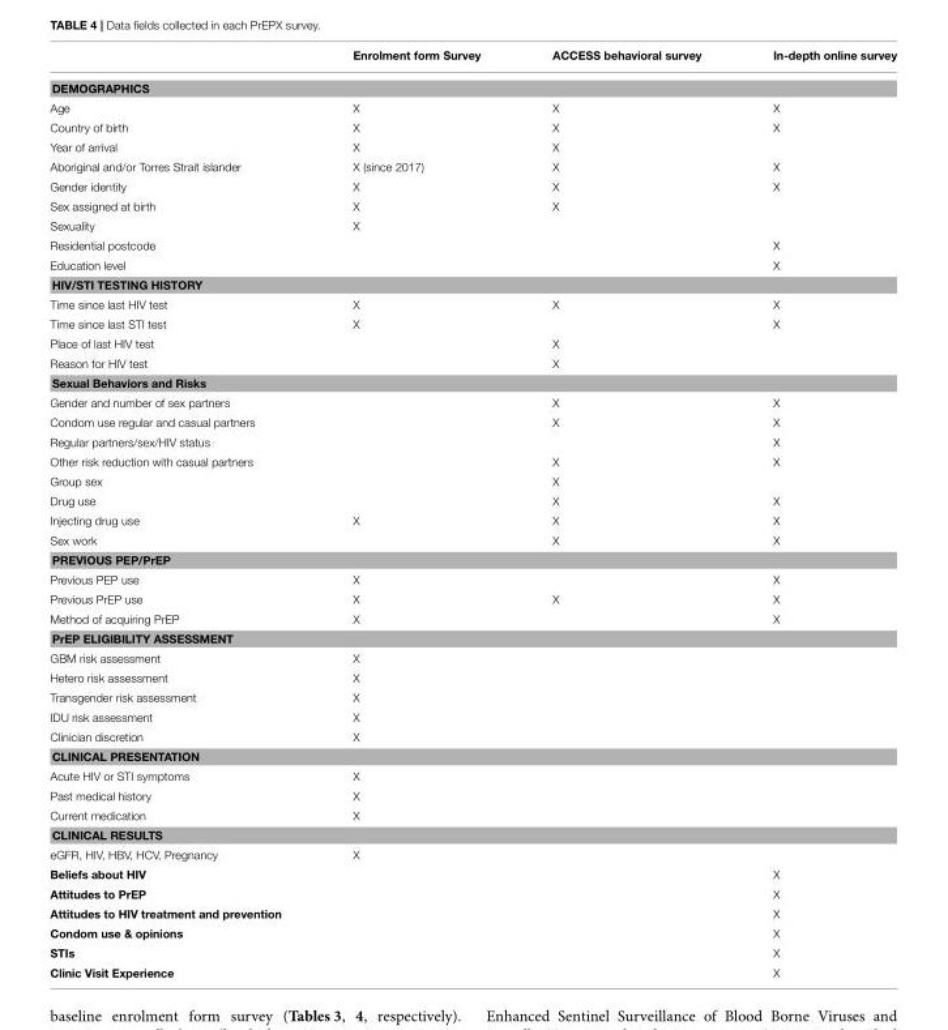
<table><thead><tr><td></td><td>Enrolment form Survey</td><td>ACCESS behavioral survey</td><td>In-depth online survey</td></tr></thead><tbody><tr><td colspan="4">DEMOGRAPHICS</td></tr><tr><td>Age</td><td>X</td><td>X</td><td>X</td></tr><tr><td>Country of birth</td><td>X</td><td>X</td><td>X</td></tr><tr><td>Year of arrival</td><td>X</td><td>X</td><td></td></tr><tr><td>Aboriginal and/or Torres Strait islander</td><td>X (since 2017)</td><td>X</td><td>X</td></tr><tr><td>Gender identity</td><td>X</td><td>X</td><td>X</td></tr><tr><td>Sex assigned at birth</td><td>X</td><td>X</td><td></td></tr><tr><td>Sexuality</td><td>X</td><td></td><td></td></tr><tr><td>Residential postcode</td><td></td><td></td><td>X</td></tr><tr><td>Education level</td><td></td><td></td><td>X</td></tr><tr><td colspan="4">HIV/STI TESTING HISTORY</td></tr><tr><td>Time since last HIV test</td><td>X</td><td>X</td><td>X</td></tr><tr><td>Time since last STI test</td><td>X</td><td></td><td>X</td></tr><tr><td>Place of last HIV test</td><td></td><td>X</td><td></td></tr><tr><td>Reason for HIV test</td><td></td><td>X</td><td></td></tr><tr><td colspan="4">Sexual Behaviors and Risks</td></tr><tr><td>Gender and number of sex partners</td><td></td><td>X</td><td>X</td></tr><tr><td>Condom use regular and casual partners</td><td></td><td>X</td><td>X</td></tr><tr><td>Regular partners/sex/HIV status</td><td></td><td></td><td>X</td></tr><tr><td>Other risk reduction with casual partners</td><td></td><td>X</td><td>X</td></tr><tr><td>Group sex</td><td></td><td>X</td><td></td></tr><tr><td>Drug use</td><td></td><td>X</td><td>X</td></tr><tr><td>Injecting drug use</td><td>X</td><td>X</td><td>X</td></tr><tr><td>Sex work</td><td></td><td>X</td><td>X</td></tr><tr><td colspan="4">PREVIOUS PEP/PrEP</td></tr><tr><td>Previous PEP use</td><td>X</td><td></td><td>X</td></tr><tr><td>Previous PrEP use</td><td>X</td><td>X</td><td>X</td></tr><tr><td>Method of acquiring PrEP</td><td>X</td><td></td><td>X</td></tr><tr><td colspan="4">PrEP ELIGIBILITY ASSESSMENT</td></tr><tr><td>GBM risk assessment</td><td>X</td><td></td><td></td></tr><tr><td>Hetero risk assessment</td><td>X</td><td></td><td></td></tr><tr><td>Transgender risk assessment</td><td>X</td><td></td><td></td></tr><tr><td>IDU risk assessment</td><td>X</td><td></td><td></td></tr><tr><td>Clinician discretion</td><td>X</td><td></td><td></td></tr><tr><td colspan="4">CLINICAL PRESENTATION</td></tr><tr><td>Acute HIV or STI symptoms</td><td>X</td><td></td><td></td></tr><tr><td>Past medical history</td><td>X</td><td></td><td></td></tr><tr><td>Current medication</td><td>X</td><td></td><td></td></tr><tr><td colspan="4">CLINICAL RESULTS</td></tr><tr><td>eGFR, HIV, HBV, HCV, Pregnancy</td><td>X</td><td></td><td></td></tr><tr><td>Beliefs about HIV</td><td></td><td></td><td>X</td></tr><tr><td>Attitudes to PrEP</td><td></td><td></td><td>X</td></tr><tr><td>Attitudes to HIV treatment and prevention</td><td></td><td></td><td>X</td></tr><tr><td>Condom use &amp; opinions</td><td></td><td></td><td>X</td></tr><tr><td>STIs</td><td></td><td></td><td>X</td></tr><tr><td>Clinic Visit Experience</td><td></td><td></td><td>X</td></tr></tbody></table>